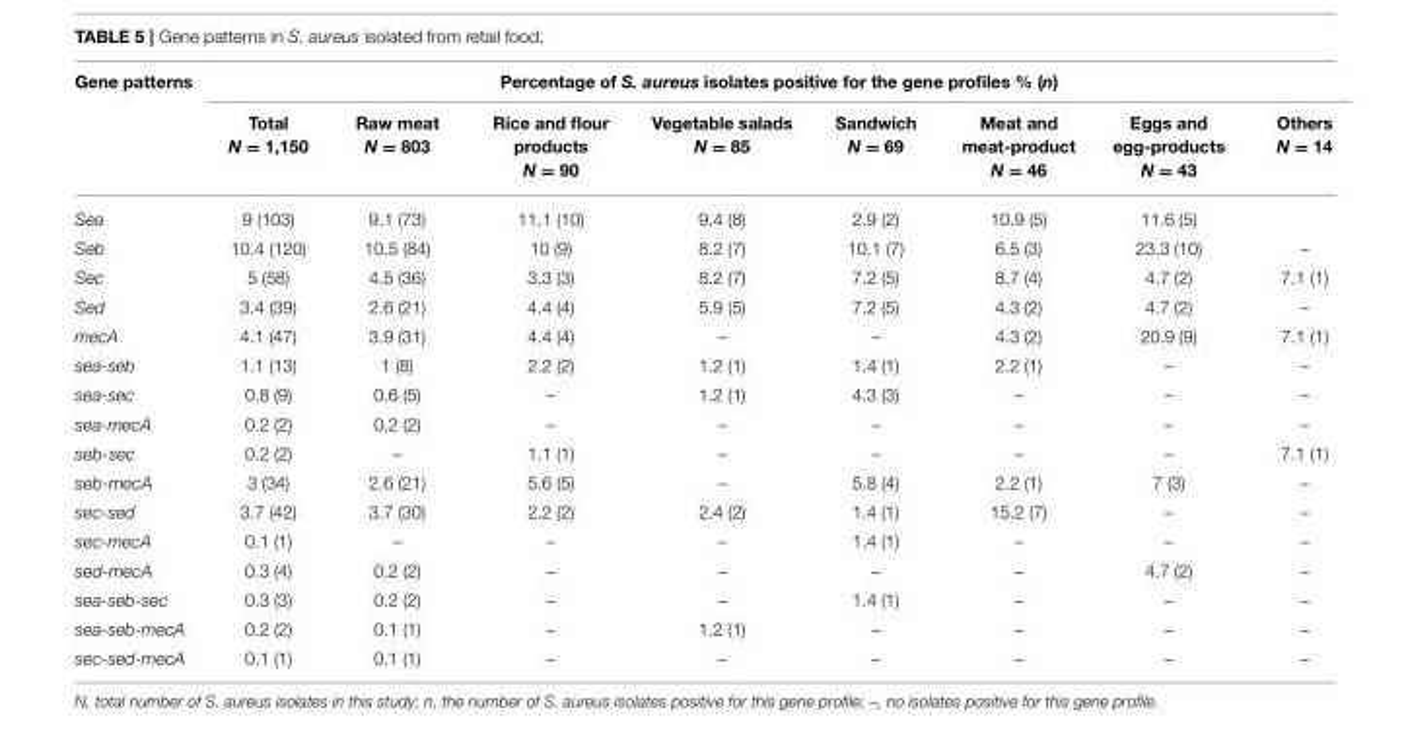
<table><thead><tr><td rowspan="2">Gene patterns</td><td colspan="8">Percentage of S. aureus isolates positive for the gene profiles % (n)</td></tr><tr><td>Total N = 1,150</td><td>Raw meat N = 803</td><td>Rice and flour products N = 90</td><td>Vegetable salads N = 85</td><td>Sandwich N = 69</td><td>Meat and meat-product N = 46</td><td>Eggs and egg-products N = 43</td><td>Others N = 14</td></tr></thead><tbody><tr><td>Sea</td><td>9 (103)</td><td>9.1 (73)</td><td>11.1 (10)</td><td>9.4 (8)</td><td>2.9 (2)</td><td>10.9 (5)</td><td>11.6 (5)</td><td></td></tr><tr><td>Seb</td><td>10.4 (120)</td><td>10.5 (84)</td><td>10 (9)</td><td>8.2 (7)</td><td>10.1 (7)</td><td>6.5 (3)</td><td>23.3 (10)</td><td>–</td></tr><tr><td>Sec</td><td>5 (58)</td><td>4.5 (36)</td><td>3.3 (3)</td><td>8.2 (7)</td><td>7.2 (5)</td><td>8.7 (4)</td><td>4.7 (2)</td><td>7.1 (1)</td></tr><tr><td>Sed</td><td>3.4 (39)</td><td>2.6 (21)</td><td>4.4 (4)</td><td>5.9 (5)</td><td>7.2 (5)</td><td>4.3 (2)</td><td>4.7 (2)</td><td>–</td></tr><tr><td>mecA</td><td>4.1 (47)</td><td>3.9 (31)</td><td>4.4 (4)</td><td>–</td><td>–</td><td>4.3 (2)</td><td>20.9 (9)</td><td>7.1 (1)</td></tr><tr><td>sea-seb</td><td>1.1 (13)</td><td>1 (8)</td><td>2.2 (2)</td><td>1.2 (1)</td><td>1.4 (1)</td><td>2.2 (1)</td><td>–</td><td>–</td></tr><tr><td>sea-sec</td><td>0.8 (9)</td><td>0.6 (5)</td><td>–</td><td>1.2 (1)</td><td>4.3 (3)</td><td>–</td><td>–</td><td>–</td></tr><tr><td>sea-mecA</td><td>0.2 (2)</td><td>0.2 (2)</td><td>–</td><td>–</td><td>–</td><td>–</td><td>–</td><td>–</td></tr><tr><td>seb-sec</td><td>0.2 (2)</td><td>–</td><td>1.1 (1)</td><td>–</td><td>–</td><td>–</td><td>–</td><td>7.1 (1)</td></tr><tr><td>seb-mecA</td><td>3 (34)</td><td>2.6 (21)</td><td>5.6 (5)</td><td>–</td><td>5.8 (4)</td><td>2.2 (1)</td><td>7 (3)</td><td>–</td></tr><tr><td>sec-sed</td><td>3.7 (42)</td><td>3.7 (30)</td><td>2.2 (2)</td><td>2.4 (2)</td><td>1.4 (1)</td><td>15.2 (7)</td><td>–</td><td>–</td></tr><tr><td>sec-mecA</td><td>0.1 (1)</td><td>–</td><td>–</td><td>–</td><td>1.4 (1)</td><td>–</td><td>–</td><td>–</td></tr><tr><td>sed-mecA</td><td>0.3 (4)</td><td>0.2 (2)</td><td>–</td><td>–</td><td>–</td><td>–</td><td>4.7 (2)</td><td>–</td></tr><tr><td>sea-seb-sec</td><td>0.3 (3)</td><td>0.2 (2)</td><td>–</td><td>–</td><td>1.4 (1)</td><td>–</td><td>–</td><td>–</td></tr><tr><td>sea-seb-mecA</td><td>0.2 (2)</td><td>0.1 (1)</td><td>–</td><td>1.2 (1)</td><td>–</td><td>–</td><td>–</td><td>–</td></tr><tr><td>sec-sed-mecA</td><td>0.1 (1)</td><td>0.1 (1)</td><td>–</td><td>–</td><td>–</td><td>–</td><td>–</td><td>–</td></tr></tbody></table>